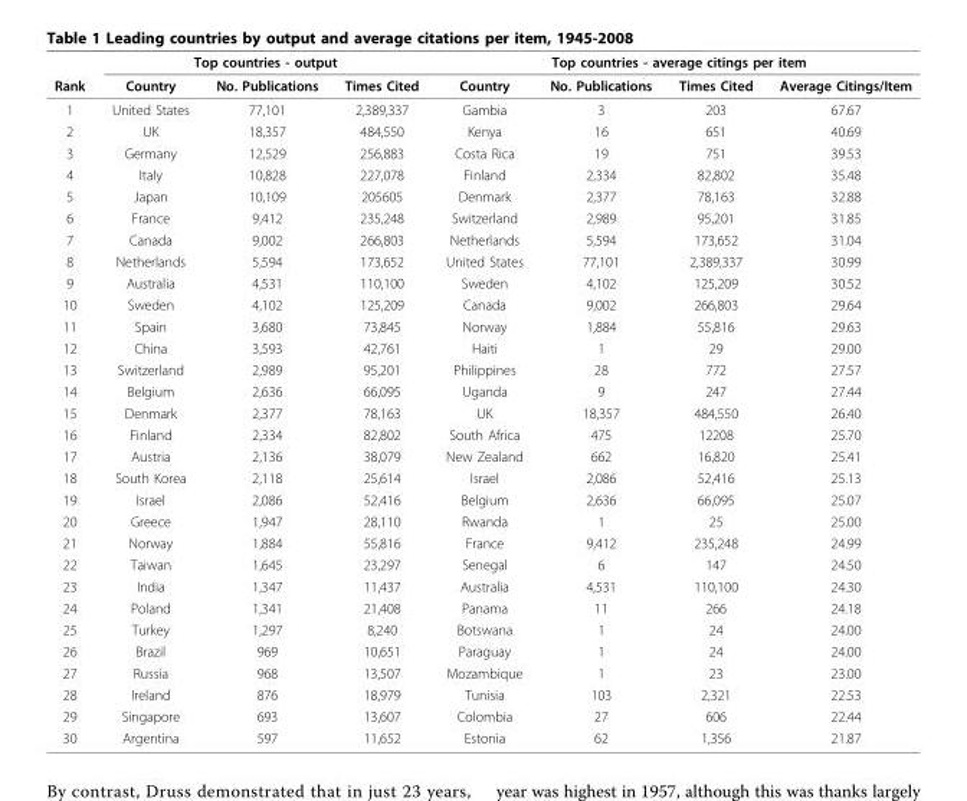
<table><thead><tr><td rowspan="2">Rank</td><td colspan="3">Top countries - output</td><td colspan="4">Top countries - average citings per item</td></tr><tr><td>Country</td><td>No. Publications</td><td>Times Cited</td><td>Country</td><td>No. Publications</td><td>Times Cited</td><td>Average Citings/Item</td></tr></thead><tbody><tr><td>1</td><td>United States</td><td>77,101</td><td>2,389,337</td><td>Gambia</td><td>3</td><td>203</td><td>67.67</td></tr><tr><td>2</td><td>UK</td><td>18,357</td><td>484,550</td><td>Kenya</td><td>16</td><td>651</td><td>40.69</td></tr><tr><td>3</td><td>Germany</td><td>12,529</td><td>256,883</td><td>Costa Rica</td><td>19</td><td>751</td><td>39.53</td></tr><tr><td>4</td><td>Italy</td><td>10,828</td><td>227,078</td><td>Finland</td><td>2,334</td><td>82,802</td><td>35.48</td></tr><tr><td>5</td><td>Japan</td><td>10,109</td><td>205605</td><td>Denmark</td><td>2,377</td><td>78,163</td><td>32.88</td></tr><tr><td>6</td><td>France</td><td>9,412</td><td>235,248</td><td>Switzerland</td><td>2,989</td><td>95,201</td><td>31.85</td></tr><tr><td>7</td><td>Canada</td><td>9,002</td><td>266,803</td><td>Netherlands</td><td>5,594</td><td>173,652</td><td>31.04</td></tr><tr><td>8</td><td>Netherlands</td><td>5,594</td><td>173,652</td><td>United States</td><td>77,101</td><td>2,389,337</td><td>30.99</td></tr><tr><td>9</td><td>Australia</td><td>4,531</td><td>110,100</td><td>Sweden</td><td>4,102</td><td>125,209</td><td>30.52</td></tr><tr><td>10</td><td>Sweden</td><td>4,102</td><td>125,209</td><td>Canada</td><td>9,002</td><td>266,803</td><td>29.64</td></tr><tr><td>11</td><td>Spain</td><td>3,680</td><td>73,845</td><td>Norway</td><td>1,884</td><td>55,816</td><td>29.63</td></tr><tr><td>12</td><td>China</td><td>3,593</td><td>42,761</td><td>Haiti</td><td>1</td><td>29</td><td>29.00</td></tr><tr><td>13</td><td>Switzerland</td><td>2,989</td><td>95,201</td><td>Philippines</td><td>28</td><td>772</td><td>27.57</td></tr><tr><td>14</td><td>Belgium</td><td>2,636</td><td>66,095</td><td>Uganda</td><td>9</td><td>247</td><td>27.44</td></tr><tr><td>15</td><td>Denmark</td><td>2,377</td><td>78,163</td><td>UK</td><td>18,357</td><td>484,550</td><td>26.40</td></tr><tr><td>16</td><td>Finland</td><td>2,334</td><td>82,802</td><td>South Africa</td><td>475</td><td>12208</td><td>25.70</td></tr><tr><td>17</td><td>Austria</td><td>2,136</td><td>38,079</td><td>New Zealand</td><td>662</td><td>16,820</td><td>25.41</td></tr><tr><td>18</td><td>South Korea</td><td>2,118</td><td>25,614</td><td>Israel</td><td>2,086</td><td>52,416</td><td>25.13</td></tr><tr><td>19</td><td>Israel</td><td>2,086</td><td>52,416</td><td>Belgium</td><td>2,636</td><td>66,095</td><td>25.07</td></tr><tr><td>20</td><td>Greece</td><td>1,947</td><td>28,110</td><td>Rwanda</td><td>1</td><td>25</td><td>25.00</td></tr><tr><td>21</td><td>Norway</td><td>1,884</td><td>55,816</td><td>France</td><td>9,412</td><td>235,248</td><td>24.99</td></tr><tr><td>22</td><td>Taiwan</td><td>1,645</td><td>23,297</td><td>Senegal</td><td>6</td><td>147</td><td>24.50</td></tr><tr><td>23</td><td>India</td><td>1,347</td><td>11,437</td><td>Australia</td><td>4,531</td><td>110,100</td><td>24.30</td></tr><tr><td>24</td><td>Poland</td><td>1,341</td><td>21,408</td><td>Panama</td><td>11</td><td>266</td><td>24.18</td></tr><tr><td>25</td><td>Turkey</td><td>1,297</td><td>8,240</td><td>Botswana</td><td>1</td><td>24</td><td>24.00</td></tr><tr><td>26</td><td>Brazil</td><td>969</td><td>10,651</td><td>Paraguay</td><td>1</td><td>24</td><td>24.00</td></tr><tr><td>27</td><td>Russia</td><td>968</td><td>13,507</td><td>Mozambique</td><td>1</td><td>23</td><td>23.00</td></tr><tr><td>28</td><td>Ireland</td><td>876</td><td>18,979</td><td>Tunisia</td><td>103</td><td>2,321</td><td>22.53</td></tr><tr><td>29</td><td>Singapore</td><td>693</td><td>13,607</td><td>Colombia</td><td>27</td><td>606</td><td>22.44</td></tr><tr><td>30</td><td>Argentina</td><td>597</td><td>11,652</td><td>Estonia</td><td>62</td><td>1,356</td><td>21.87</td></tr></tbody></table>